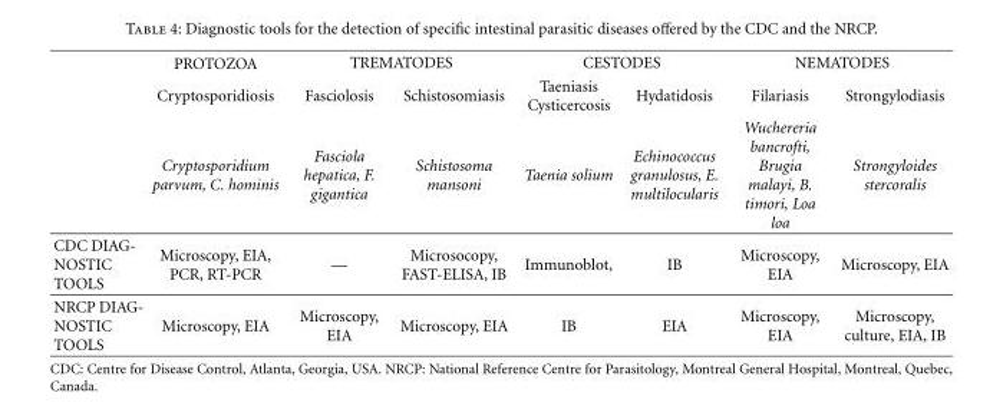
<table><thead><tr><td rowspan="3"></td><td rowspan="3">PROTOZOA Cryptosporidiosis Cryptosporidium parvum, C. hominis</td><td colspan="2">TREMATODES</td><td colspan="2">CESTODES</td><td colspan="2">NEMATODES</td></tr><tr><td rowspan="2">Fasciolosis Fasciola hepatica, F. gigantica</td><td rowspan="2">Schistosomiasis Schistosoma mansoni</td><td rowspan="2">Taeniasis Cysticercosis Taenia solium</td><td rowspan="2">Hydatidosis Echinococcus granulosus, E. multilocularis</td><td rowspan="2">Filariasis Wuchereria bancrofti, Brugia malayi, B. timori, Loa loa</td><td rowspan="2">Strongylodiasis Strongyloides stercoralis</td></tr><tr></tr></thead><tbody><tr><td>CDC DIAG- NOSTIC TOOLS</td><td>Microscopy, EIA, PCR, RT-PCR</td><td>—</td><td>Microsocopy, FAST-ELISA, IB</td><td>Immunoblot,</td><td>IB</td><td>Microscopy, EIA</td><td>Microscopy, EIA</td></tr><tr><td>NRCP DIAG- NOSTIC TOOLS</td><td>Microscopy, EIA</td><td>Microscopy, EIA</td><td>Microscopy, EIA</td><td>IB</td><td>EIA</td><td>Microscopy, EIA</td><td>Microscopy, culture, EIA, IB</td></tr></tbody></table>